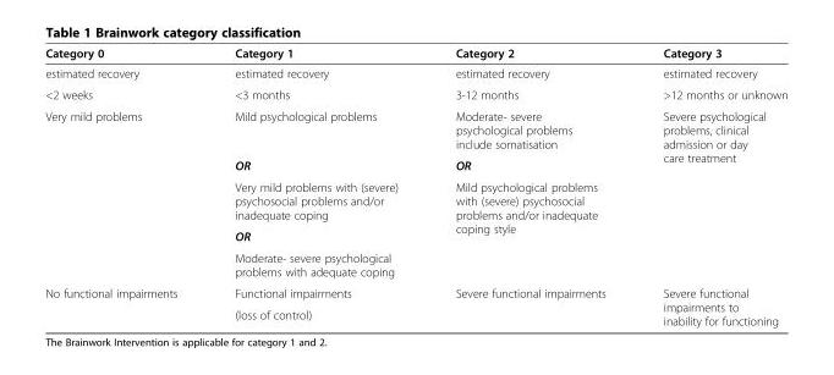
<table><thead><tr><td>Category 0</td><td>Category 1</td><td>Category 2</td><td>Category 3</td></tr></thead><tbody><tr><td>estimated recovery</td><td>estimated recovery</td><td>estimated recovery</td><td>estimated recovery</td></tr><tr><td>&lt;2 weeks</td><td>&lt;3 months</td><td>3-12 months</td><td>&gt;12 months or unknown</td></tr><tr><td rowspan="5">Very mild problems</td><td>Mild psychological problems</td><td>Moderate- severe psychological problems include somatisation</td><td rowspan="5">Severe psychological problems, clinical admission or day care treatment</td></tr><tr><td>OR</td><td>OR</td></tr><tr><td>Very mild problems with (severe) psychosocial problems and/or inadequate coping</td><td rowspan="3">Mild psychological problems with (severe) psychosocial problems and/or inadequate coping style</td></tr><tr><td>OR</td></tr><tr><td>Moderate- severe psychological problems with adequate coping</td></tr><tr><td rowspan="2">No functional impairments</td><td>Functional impairments</td><td rowspan="2">Severe functional impairments</td><td rowspan="2">Severe functional impairments to inability for functioning</td></tr><tr><td>(loss of control)</td></tr></tbody></table>